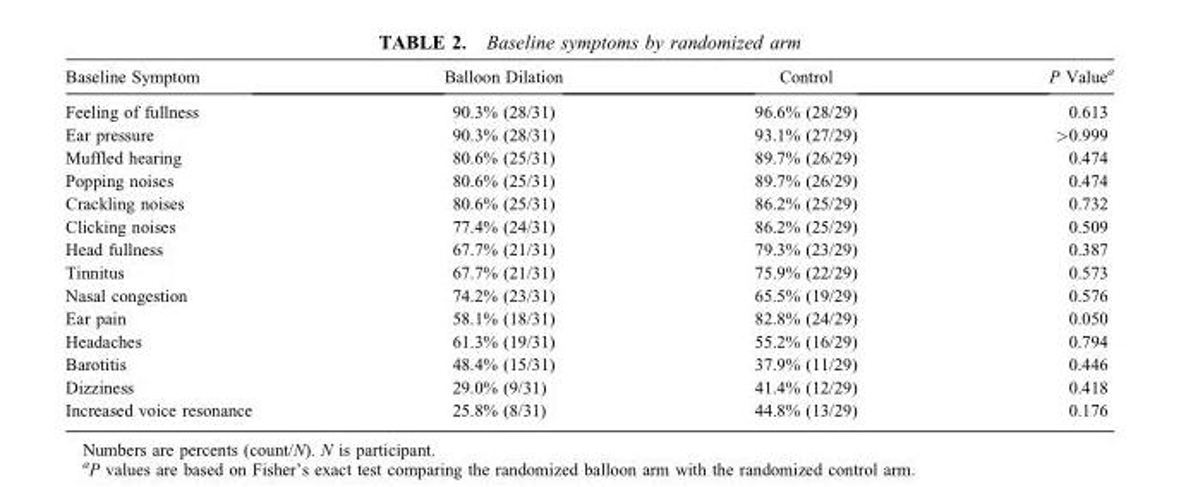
<table><thead><tr><td>Baseline Symptom</td><td>Balloon Dilation</td><td>Control</td><td>P Value<sup>a</sup></td></tr></thead><tbody><tr><td>Feeling of fullness</td><td>90.3% (28/31)</td><td>96.6% (28/29)</td><td>0.613</td></tr><tr><td>Ear pressure</td><td>90.3% (28/31)</td><td>93.1% (27/29)</td><td>&gt;0.999</td></tr><tr><td>Muffled hearing</td><td>80.6% (25/31)</td><td>89.7% (26/29)</td><td>0.474</td></tr><tr><td>Popping noises</td><td>80.6% (25/31)</td><td>89.7% (26/29)</td><td>0.474</td></tr><tr><td>Crackling noises</td><td>80.6% (25/31)</td><td>86.2% (25/29)</td><td>0.732</td></tr><tr><td>Clicking noises</td><td>77.4% (24/31)</td><td>86.2% (25/29)</td><td>0.509</td></tr><tr><td>Head fullness</td><td>67.7% (21/31)</td><td>79.3% (23/29)</td><td>0.387</td></tr><tr><td>Tinnitus</td><td>67.7% (21/31)</td><td>75.9% (22/29)</td><td>0.573</td></tr><tr><td>Nasal congestion</td><td>74.2% (23/31)</td><td>65.5% (19/29)</td><td>0.576</td></tr><tr><td>Ear pain</td><td>58.1% (18/31)</td><td>82.8% (24/29)</td><td>0.050</td></tr><tr><td>Headaches</td><td>61.3% (19/31)</td><td>55.2% (16/29)</td><td>0.794</td></tr><tr><td>Barotitis</td><td>48.4% (15/31)</td><td>37.9% (11/29)</td><td>0.446</td></tr><tr><td>Dizziness</td><td>29.0% (9/31)</td><td>41.4% (12/29)</td><td>0.418</td></tr><tr><td>Increased voice resonance</td><td>25.8% (8/31)</td><td>44.8% (13/29)</td><td>0.176</td></tr></tbody></table>